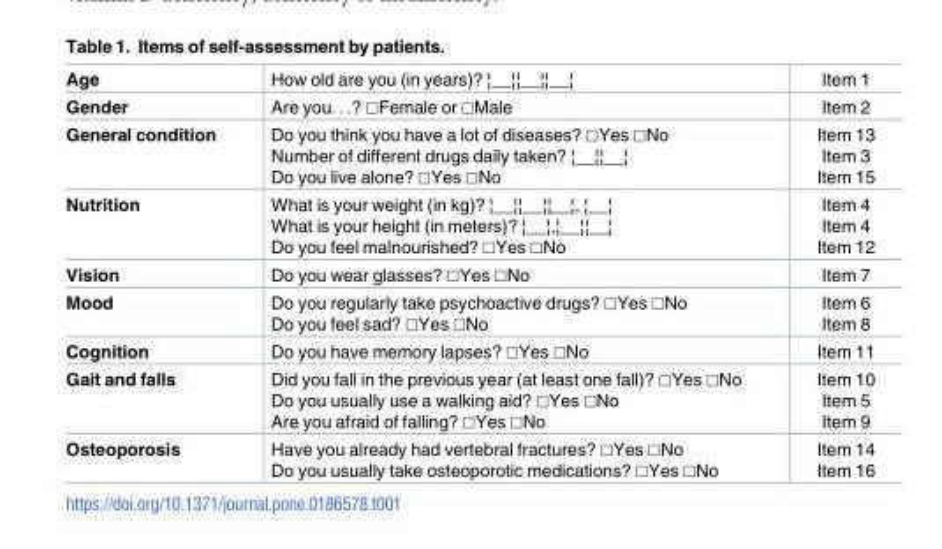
<table><tbody><tr><td>Age</td><td>How old are you (in years)? ¦__¦¦__¦¦__¦</td><td>Item 1</td></tr><tr><td>Gender</td><td>Are you. . .? ☐Female or ☐Male</td><td>Item 2</td></tr><tr><td>General condition</td><td>Do you think you have a lot of diseases? ☐Yes ☐No Number of different drugs daily taken? ¦__¦¦__¦ Do you live alone? ☐Yes ☐No</td><td>Item 13 Item 3 Item 15</td></tr><tr><td>Nutrition</td><td>What is your weight (in kg)? ¦__¦¦__¦¦__¦, ¦__¦ What is your height (in meters)? ¦__¦,¦__¦¦__¦ Do you feel malnourished? ☐Yes ☐No</td><td>Item 4 Item 4 Item 12</td></tr><tr><td>Vision</td><td>Do you wear glasses? ☐Yes ☐No</td><td>Item 7</td></tr><tr><td>Mood</td><td>Do you regularly take psychoactive drugs? ☐Yes ☐No Do you feel sad? ☐Yes ☐No</td><td>Item 6 Item 8</td></tr><tr><td>Cognition</td><td>Do you have memory lapses? ☐Yes ☐No</td><td>Item 11</td></tr><tr><td>Gait and falls</td><td>Did you fall in the previous year (at least one fall)? ☐Yes ☐No Do you usually use a walking aid? ☐Yes ☐No Are you afraid of falling? ☐Yes ☐No</td><td>Item 10 Item 5 Item 9</td></tr><tr><td>Osteoporosis</td><td>Have you already had vertebral fractures? ☐Yes ☐No Do you usually take osteoporotic medications? ☐Yes ☐No</td><td>Item 14 Item 16</td></tr></tbody></table>